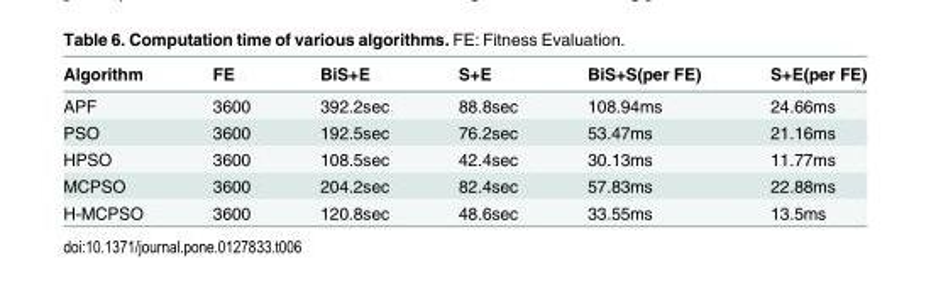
<table><thead><tr><td>Algorithm</td><td>FE</td><td>BiS+E</td><td>S+E</td><td>BiS+S(per FE)</td><td>S+E(per FE)</td></tr></thead><tbody><tr><td>APF</td><td>3600</td><td>392.2sec</td><td>88.8sec</td><td>108.94ms</td><td>24.66ms</td></tr><tr><td>PSO</td><td>3600</td><td>192.5sec</td><td>76.2sec</td><td>53.47ms</td><td>21.16ms</td></tr><tr><td>HPSO</td><td>3600</td><td>108.5sec</td><td>42.4sec</td><td>30.13ms</td><td>11.77ms</td></tr><tr><td>MCPSO</td><td>3600</td><td>204.2sec</td><td>82.4sec</td><td>57.83ms</td><td>22.88ms</td></tr><tr><td>H-MCPSO</td><td>3600</td><td>120.8sec</td><td>48.6sec</td><td>33.55ms</td><td>13.5ms</td></tr></tbody></table>